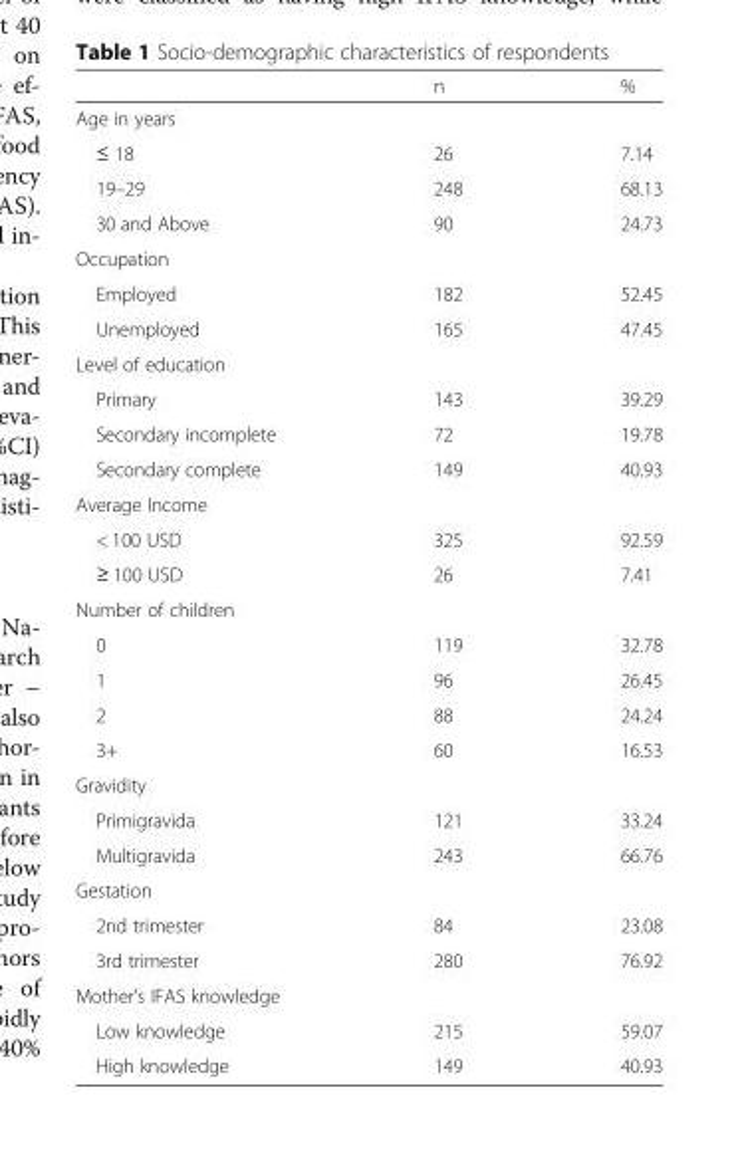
<table><thead><tr><td></td><td>n</td><td>%</td></tr></thead><tbody><tr><td colspan="3">Age in years</td></tr><tr><td>≤ 18</td><td>26</td><td>7.14</td></tr><tr><td>19–29</td><td>248</td><td>68.13</td></tr><tr><td>30 and Above</td><td>90</td><td>24.73</td></tr><tr><td colspan="3">Occupation</td></tr><tr><td>Employed</td><td>182</td><td>52.45</td></tr><tr><td>Unemployed</td><td>165</td><td>47.45</td></tr><tr><td colspan="3">Level of education</td></tr><tr><td>Primary</td><td>143</td><td>39.29</td></tr><tr><td>Secondary incomplete</td><td>72</td><td>19.78</td></tr><tr><td>Secondary complete</td><td>149</td><td>40.93</td></tr><tr><td colspan="3">Average Income</td></tr><tr><td>&lt; 100 USD</td><td>325</td><td>92.59</td></tr><tr><td>≥ 100 USD</td><td>26</td><td>7.41</td></tr><tr><td colspan="3">Number of children</td></tr><tr><td>0</td><td>119</td><td>32.78</td></tr><tr><td>1</td><td>96</td><td>26.45</td></tr><tr><td>2</td><td>88</td><td>24.24</td></tr><tr><td>3+</td><td>60</td><td>16.53</td></tr><tr><td colspan="3">Gravidity</td></tr><tr><td>Primigravida</td><td>121</td><td>33.24</td></tr><tr><td>Multigravida</td><td>243</td><td>66.76</td></tr><tr><td colspan="3">Gestation</td></tr><tr><td>2nd trimester</td><td>84</td><td>23.08</td></tr><tr><td>3rd trimester</td><td>280</td><td>76.92</td></tr><tr><td colspan="3">Mother’s IFAS knowledge</td></tr><tr><td>Low knowledge</td><td>215</td><td>59.07</td></tr><tr><td>High knowledge</td><td>149</td><td>40.93</td></tr></tbody></table>